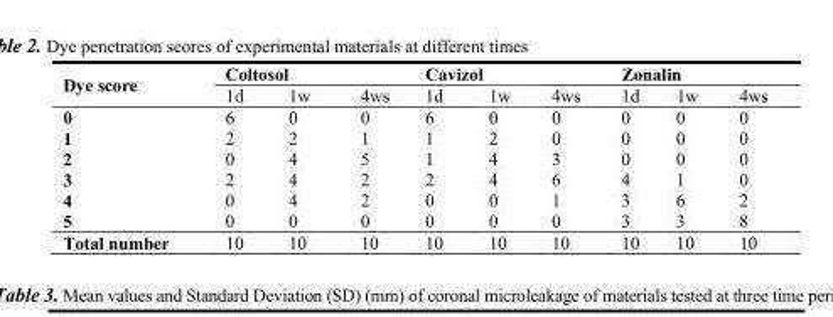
<table><thead><tr><td rowspan="2">Dye score</td><td colspan="3">Coltosol</td><td colspan="3">Cavizol</td><td colspan="3">Zonalin</td></tr><tr><td>1d</td><td>1w</td><td>4ws</td><td>1d</td><td>1w</td><td>4ws</td><td>1d</td><td>1w</td><td>4ws</td></tr></thead><tbody><tr><td>0</td><td>6</td><td>0</td><td>0</td><td>6</td><td>0</td><td>0</td><td>0</td><td>0</td><td>0</td></tr><tr><td>1</td><td>2</td><td>2</td><td>1</td><td>1</td><td>2</td><td>0</td><td>0</td><td>0</td><td>0</td></tr><tr><td>2</td><td>0</td><td>4</td><td>5</td><td>1</td><td>4</td><td>3</td><td>0</td><td>0</td><td>0</td></tr><tr><td>3</td><td>2</td><td>4</td><td>2</td><td>2</td><td>4</td><td>6</td><td>4</td><td>1</td><td>0</td></tr><tr><td>4</td><td>0</td><td>4</td><td>2</td><td>0</td><td>0</td><td>1</td><td>3</td><td>6</td><td>2</td></tr><tr><td>5</td><td>0</td><td>0</td><td>0</td><td>0</td><td>0</td><td>0</td><td>3</td><td>3</td><td>8</td></tr><tr><td>Total number</td><td>10</td><td>10</td><td>10</td><td>10</td><td>10</td><td>10</td><td>10</td><td>10</td><td>10</td></tr></tbody></table>